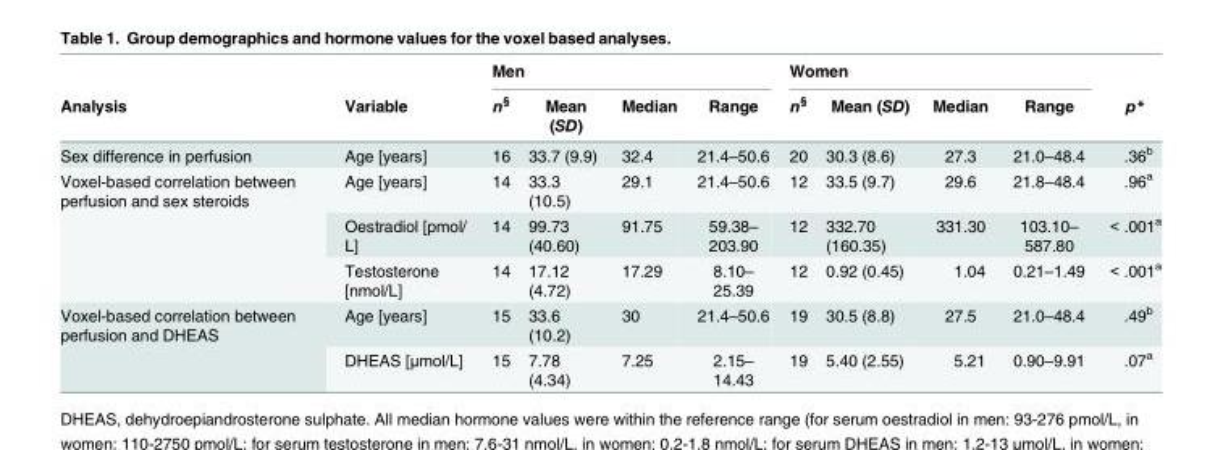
<table><thead><tr><td rowspan="2">Analysis</td><td rowspan="2">Variable</td><td colspan="4">Men</td><td colspan="4">Women</td><td rowspan="2">p*</td></tr><tr><td>n<sup>§</sup></td><td>Mean (SD)</td><td>Median</td><td>Range</td><td>n<sup>§</sup></td><td>Mean (SD)</td><td>Median</td><td>Range</td></tr></thead><tbody><tr><td>Sex difference in perfusion</td><td>Age [years]</td><td>16</td><td>33.7 (9.9)</td><td>32.4</td><td>21.4–50.6</td><td>20</td><td>30.3 (8.6)</td><td>27.3</td><td>21.0–48.4</td><td>.36<sup>b</sup></td></tr><tr><td rowspan="3">Voxel-based correlation between perfusion and sex steroids</td><td>Age [years]</td><td>14</td><td>33.3 (10.5)</td><td>29.1</td><td>21.4–50.6</td><td>12</td><td>33.5 (9.7)</td><td>29.6</td><td>21.8–48.4</td><td>.96<sup>a</sup></td></tr><tr><td>Oestradiol [pmol/ L]</td><td>14</td><td>99.73 (40.60)</td><td>91.75</td><td>59.38– 203.90</td><td>12</td><td>332.70 (160.35)</td><td>331.30</td><td>103.10– 587.80</td><td>&lt; .001<sup>a</sup></td></tr><tr><td>Testosterone [nmol/L]</td><td>14</td><td>17.12 (4.72)</td><td>17.29</td><td>8.10– 25.39</td><td>12</td><td>0.92 (0.45)</td><td>1.04</td><td>0.21–1.49</td><td>&lt; .001<sup>a</sup></td></tr><tr><td rowspan="2">Voxel-based correlation between perfusion and DHEAS</td><td>Age [years]</td><td>15</td><td>33.6 (10.2)</td><td>30</td><td>21.4–50.6</td><td>19</td><td>30.5 (8.8)</td><td>27.5</td><td>21.0–48.4</td><td>.49<sup>b</sup></td></tr><tr><td>DHEAS [μmol/L]</td><td>15</td><td>7.78 (4.34)</td><td>7.25</td><td>2.15– 14.43</td><td>19</td><td>5.40 (2.55)</td><td>5.21</td><td>0.90–9.91</td><td>.07<sup>a</sup></td></tr></tbody></table>